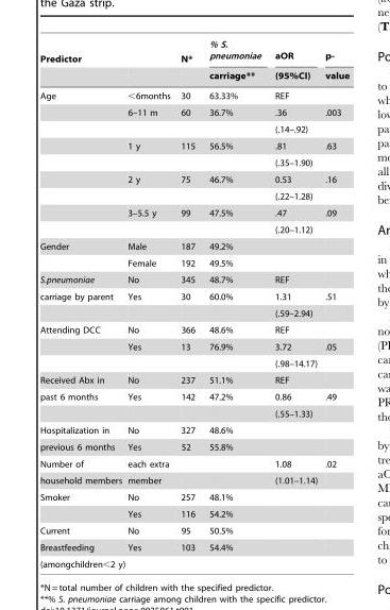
<table><thead><tr><td rowspan="2">Predictor</td><td rowspan="2"></td><td rowspan="2">N*</td><td rowspan="2">% S. pneumoniae carriage**</td><td rowspan="2">aOR (95%CI)</td><td rowspan="2">p- value</td></tr><tr></tr></thead><tbody><tr><td rowspan="9">Age</td><td>&lt;6months</td><td>30</td><td>63.33%</td><td>REF</td><td></td></tr><tr><td>6–11 m</td><td>60</td><td>36.7%</td><td>.36</td><td>.003</td></tr><tr><td></td><td></td><td></td><td>(.14–.92)</td><td></td></tr><tr><td>1 y</td><td>115</td><td>56.5%</td><td>.81</td><td>.63</td></tr><tr><td></td><td></td><td></td><td>(.35–1.90)</td><td></td></tr><tr><td>2 y</td><td>75</td><td>46.7%</td><td>0.53</td><td>.16</td></tr><tr><td></td><td></td><td></td><td>(.22–1.28)</td><td></td></tr><tr><td>3–5.5 y</td><td>99</td><td>47.5%</td><td>.47</td><td>.09</td></tr><tr><td></td><td></td><td></td><td>(.20–1.12)</td><td></td></tr><tr><td rowspan="2">Gender</td><td>Male</td><td>187</td><td>49.2%</td><td></td><td></td></tr><tr><td>Female</td><td>192</td><td>49.5%</td><td></td><td></td></tr><tr><td>S.pneumoniae</td><td>No</td><td>345</td><td>48.7%</td><td>REF</td><td></td></tr><tr><td rowspan="2">carriage by parent</td><td>Yes</td><td>30</td><td>60.0%</td><td>1.31</td><td>.51</td></tr><tr><td></td><td></td><td></td><td>(.59–2.94)</td><td></td></tr><tr><td rowspan="3">Attending DCC</td><td>No</td><td>366</td><td>48.6%</td><td>REF</td><td></td></tr><tr><td>Yes</td><td>13</td><td>76.9%</td><td>3.72</td><td>.05</td></tr><tr><td></td><td></td><td></td><td>(.98–14.17)</td><td></td></tr><tr><td>Received Abx in</td><td>No</td><td>237</td><td>51.1%</td><td>REF</td><td></td></tr><tr><td rowspan="2">past 6 months</td><td>Yes</td><td>142</td><td>47.2%</td><td>0.86</td><td>.49</td></tr><tr><td></td><td></td><td></td><td>(.55–1.33)</td><td></td></tr><tr><td>Hospitalization in</td><td>No</td><td>327</td><td>48.6%</td><td></td><td></td></tr><tr><td>previous 6 months</td><td>Yes</td><td>52</td><td>55.8%</td><td></td><td></td></tr><tr><td>Number of</td><td>each extra</td><td></td><td></td><td>1.08</td><td>.02</td></tr><tr><td>household members</td><td>member</td><td></td><td></td><td>(1.01–1.14)</td><td></td></tr><tr><td rowspan="2">Smoker</td><td>No</td><td>257</td><td>48.1%</td><td></td><td></td></tr><tr><td>Yes</td><td>116</td><td>54.2%</td><td></td><td></td></tr><tr><td>Current</td><td>No</td><td>95</td><td>50.5%</td><td></td><td></td></tr><tr><td>Breastfeeding</td><td>Yes</td><td>103</td><td>54.4%</td><td></td><td></td></tr><tr><td>(amongchildren&lt;2 y)</td><td></td><td></td><td></td><td></td><td></td></tr></tbody></table>